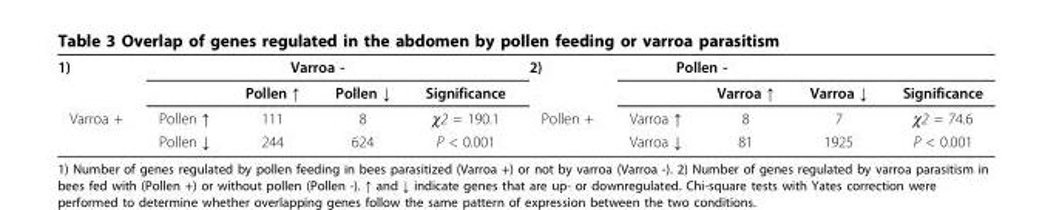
<table><tbody><tr><td rowspan="2">1)</td><td></td><td colspan="2">Varroa -</td><td></td><td>2)</td><td colspan="2">Pollen -</td><td></td><td></td></tr><tr><td></td><td>Pollen ↑</td><td>Pollen ↓</td><td>Significance</td><td></td><td></td><td>Varroa ↑</td><td>Varroa ↓</td><td>Significance</td></tr><tr><td rowspan="2">Varroa +</td><td>Pollen ↑</td><td>111</td><td>8</td><td>χ2 = 190.1</td><td>Pollen +</td><td>Varroa ↑</td><td>8</td><td>7</td><td>χ2 = 74.6</td></tr><tr><td>Pollen ↓</td><td>244</td><td>624</td><td>P &lt; 0.001</td><td></td><td>Varroa ↓</td><td>81</td><td>1925</td><td>P &lt; 0.001</td></tr></tbody></table>